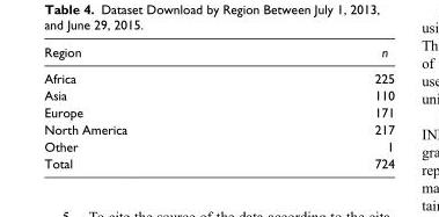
<table><thead><tr><td>Region</td><td>n</td></tr></thead><tbody><tr><td>Africa</td><td>225</td></tr><tr><td>Asia</td><td>110</td></tr><tr><td>Europe</td><td>171</td></tr><tr><td>North America</td><td>217</td></tr><tr><td>Other</td><td>1</td></tr><tr><td>Total</td><td>724</td></tr></tbody></table>